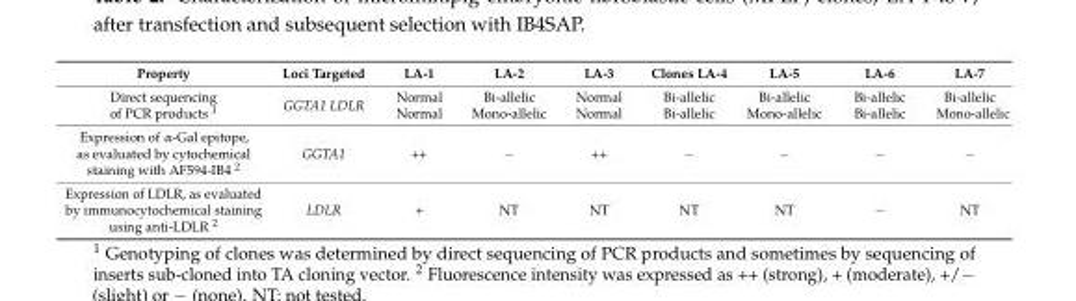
<table><thead><tr><td>Property</td><td>Loci Targeted</td><td>LA-1</td><td>LA-2</td><td>LA-3</td><td>Clones LA-4</td><td>LA-5</td><td>LA-6</td><td>LA-7</td></tr></thead><tbody><tr><td>Direct sequencing of PCR products <sup>1</sup></td><td>GGTA1 LDLR</td><td>Normal Normal</td><td>Bi-allelic Mono-allelic</td><td>Normal Normal</td><td>Bi-allelic Bi-allelic</td><td>Bi-allelic Mono-allelic</td><td>Bi-allelic Bi-allelic</td><td>Bi-allelic Mono-allelic</td></tr><tr><td>Expression of α-Gal epitope, as evaluated by cytochemical staining with AF594-IB4 <sup>2</sup></td><td>GGTA1</td><td>++</td><td>−</td><td>++</td><td>−</td><td>−</td><td>−</td><td>−</td></tr><tr><td>Expression of LDLR, as evaluated by immunocytochemical staining using anti-LDLR <sup>2</sup></td><td>LDLR</td><td>+</td><td>NT</td><td>NT</td><td>NT</td><td>NT</td><td>−</td><td>NT</td></tr></tbody></table>